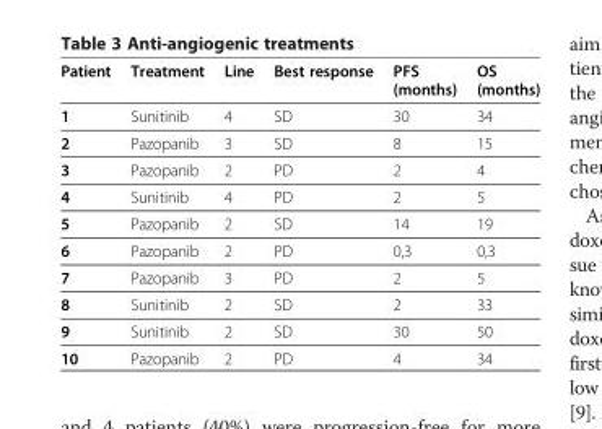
<table><thead><tr><td>Patient</td><td>Treatment</td><td>Line</td><td>Best response</td><td>PFS (months)</td><td>OS (months)</td></tr></thead><tbody><tr><td>1</td><td>Sunitinib</td><td>4</td><td>SD</td><td>30</td><td>34</td></tr><tr><td>2</td><td>Pazopanib</td><td>3</td><td>SD</td><td>8</td><td>15</td></tr><tr><td>3</td><td>Pazopanib</td><td>2</td><td>PD</td><td>2</td><td>4</td></tr><tr><td>4</td><td>Sunitinib</td><td>4</td><td>PD</td><td>2</td><td>5</td></tr><tr><td>5</td><td>Pazopanib</td><td>2</td><td>SD</td><td>14</td><td>19</td></tr><tr><td>6</td><td>Pazopanib</td><td>2</td><td>PD</td><td>0,3</td><td>0,3</td></tr><tr><td>7</td><td>Pazopanib</td><td>3</td><td>PD</td><td>2</td><td>5</td></tr><tr><td>8</td><td>Sunitinib</td><td>2</td><td>SD</td><td>2</td><td>33</td></tr><tr><td>9</td><td>Sunitinib</td><td>2</td><td>SD</td><td>30</td><td>50</td></tr><tr><td>10</td><td>Pazopanib</td><td>2</td><td>PD</td><td>4</td><td>34</td></tr></tbody></table>